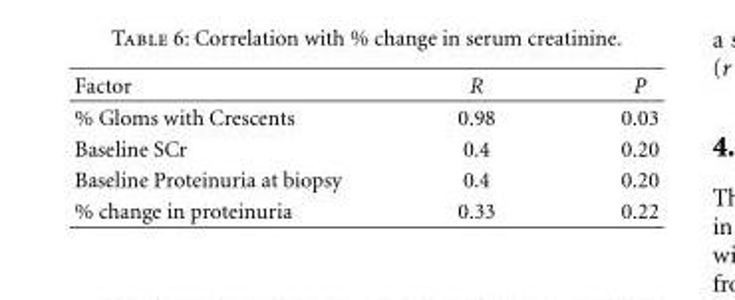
<table><thead><tr><td>Factor</td><td>R</td><td>P</td></tr></thead><tbody><tr><td>% Gloms with Crescents</td><td>0.98</td><td>0.03</td></tr><tr><td>Baseline SCr</td><td>0.4</td><td>0.20</td></tr><tr><td>Baseline Proteinuria at biopsy</td><td>0.4</td><td>0.20</td></tr><tr><td>% change in proteinuria</td><td>0.33</td><td>0.22</td></tr></tbody></table>